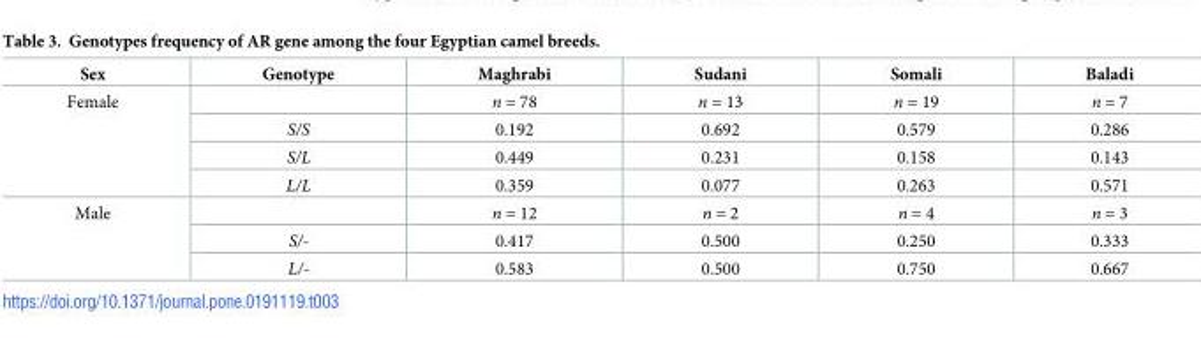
<table><thead><tr><td>Sex</td><td>Genotype</td><td>Maghrabi</td><td>Sudani</td><td>Somali</td><td>Baladi</td></tr></thead><tbody><tr><td rowspan="4">Female</td><td></td><td>n = 78</td><td>n = 13</td><td>n = 19</td><td>n = 7</td></tr><tr><td>S/S</td><td>0.192</td><td>0.692</td><td>0.579</td><td>0.286</td></tr><tr><td>S/L</td><td>0.449</td><td>0.231</td><td>0.158</td><td>0.143</td></tr><tr><td>L/L</td><td>0.359</td><td>0.077</td><td>0.263</td><td>0.571</td></tr><tr><td rowspan="3">Male</td><td></td><td>n = 12</td><td>n = 2</td><td>n = 4</td><td>n = 3</td></tr><tr><td>S/-</td><td>0.417</td><td>0.500</td><td>0.250</td><td>0.333</td></tr><tr><td>L/-</td><td>0.583</td><td>0.500</td><td>0.750</td><td>0.667</td></tr></tbody></table>